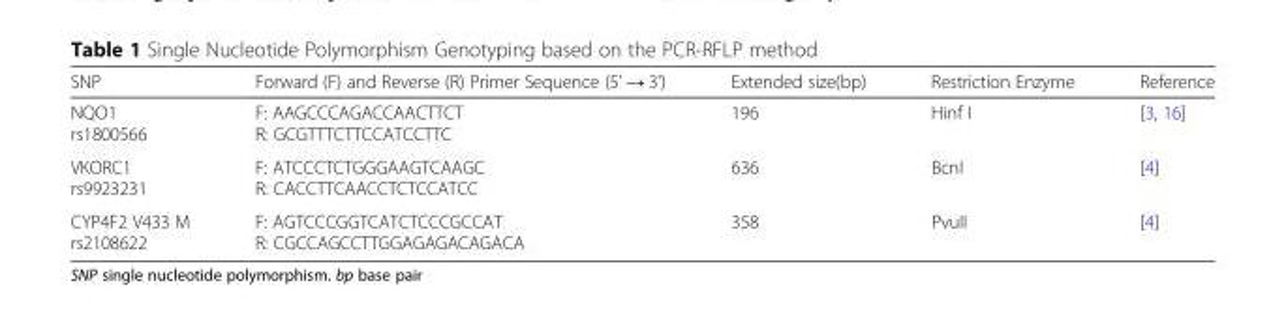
<table><thead><tr><td>SNP</td><td>Forward (F) and Reverse (R) Primer Sequence (5&#x27; → 3&#x27;)</td><td>Extended size(bp)</td><td>Restriction Enzyme</td><td>Reference</td></tr></thead><tbody><tr><td>NQO1 rs1800566</td><td>F: AAGCCCAGACCAACTTCT R: GCGTTTCTTCCATCCTTC</td><td>196</td><td>Hinf I</td><td>[3, 16]</td></tr><tr><td>VKORC1 rs9923231</td><td>F: ATCCCTCTGGGAAGTCAAGC R: CACCTTCAACCTCTCCATCC</td><td>636</td><td>BcnI</td><td>[4]</td></tr><tr><td>CYP4F2 V433 M rs2108622</td><td>F: AGTCCCGGTCATCTCCCGCCAT R: CGCCAGCCTTGGAGAGACAGACA</td><td>358</td><td>PvuII</td><td>[4]</td></tr></tbody></table>